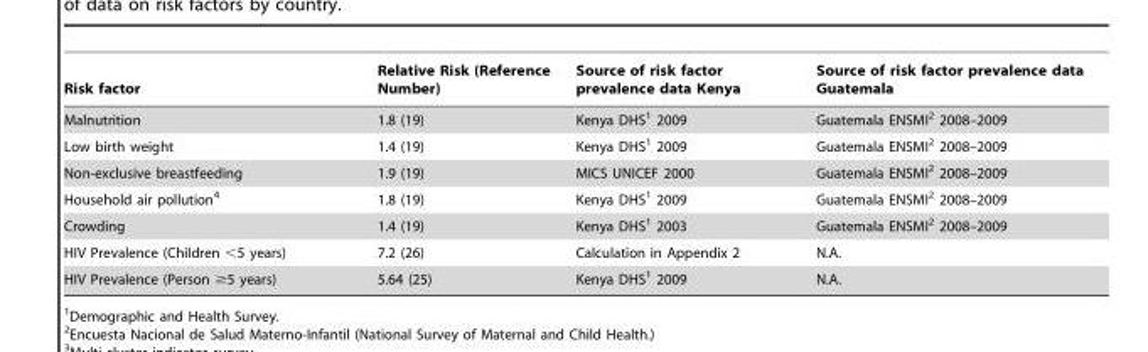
<table><thead><tr><td>Risk factor</td><td>Relative Risk (Reference Number)</td><td>Source of risk factor prevalence data Kenya</td><td>Source of risk factor prevalence data Guatemala</td></tr></thead><tbody><tr><td>Malnutrition</td><td>1.8 (19)</td><td>Kenya DHS<sup>1</sup> 2009</td><td>Guatemala ENSMI<sup>2</sup> 2008–2009</td></tr><tr><td>Low birth weight</td><td>1.4 (19)</td><td>Kenya DHS<sup>1</sup> 2009</td><td>Guatemala ENSMI<sup>2</sup> 2008–2009</td></tr><tr><td>Non-exclusive breastfeeding</td><td>1.9 (19)</td><td>MICS UNICEF 2000</td><td>Guatemala ENSMI<sup>2</sup> 2008–2009</td></tr><tr><td>Household air pollution<sup>4</sup></td><td>1.8 (19)</td><td>Kenya DHS<sup>1</sup> 2009</td><td>Guatemala ENSMI<sup>2</sup> 2008–2009</td></tr><tr><td>Crowding</td><td>1.4 (19)</td><td>Kenya DHS<sup>1</sup> 2003</td><td>Guatemala ENSMI<sup>2</sup> 2008–2009</td></tr><tr><td>HIV Prevalence (Children &lt;5 years)</td><td>7.2 (26)</td><td>Calculation in Appendix 2</td><td>N.A.</td></tr><tr><td>HIV Prevalence (Person ≥5 years)</td><td>5.64 (25)</td><td>Kenya DHS<sup>1</sup> 2009</td><td>N.A.</td></tr></tbody></table>